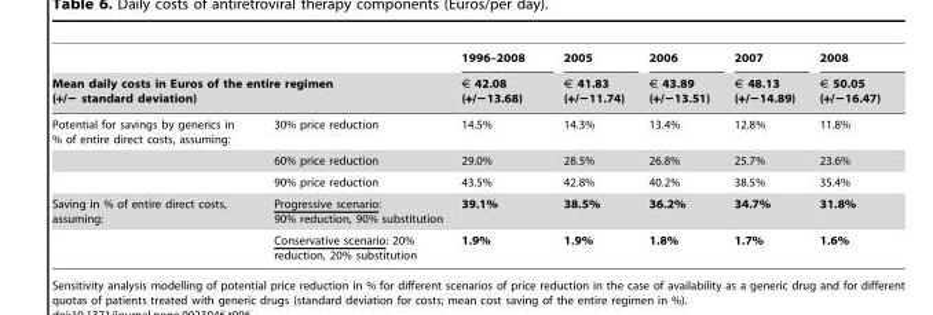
<table><thead><tr><td></td><td></td><td rowspan="2">1996–2008 € 42.08 (+/−13.68)</td><td rowspan="2">2005 € 41.83 (+/−11.74)</td><td rowspan="2">2006 € 43.89 (+/−13.51)</td><td rowspan="2">2007 € 48.13 (+/−14.89)</td><td rowspan="2">2008 € 50.05 (+/−16.47)</td></tr><tr><td colspan="2">Mean daily costs in Euros of the entire regimen (+/− standard deviation)</td></tr></thead><tbody><tr><td rowspan="3">Potential for savings by generics in % of entire direct costs, assuming:</td><td>30% price reduction</td><td>14.5%</td><td>14.3%</td><td>13.4%</td><td>12.8%</td><td>11.8%</td></tr><tr><td>60% price reduction</td><td>29.0%</td><td>28.5%</td><td>26.8%</td><td>25.7%</td><td>23.6%</td></tr><tr><td>90% price reduction</td><td>43.5%</td><td>42.8%</td><td>40.2%</td><td>38.5%</td><td>35.4%</td></tr><tr><td rowspan="2">Saving in % of entire direct costs, assuming:</td><td>Progressive scenario: 90% reduction, 90% substitution</td><td>39.1%</td><td>38.5%</td><td>36.2%</td><td>34.7%</td><td>31.8%</td></tr><tr><td>Conservative scenario: 20% reduction, 20% substitution</td><td>1.9%</td><td>1.9%</td><td>1.8%</td><td>1.7%</td><td>1.6%</td></tr></tbody></table>